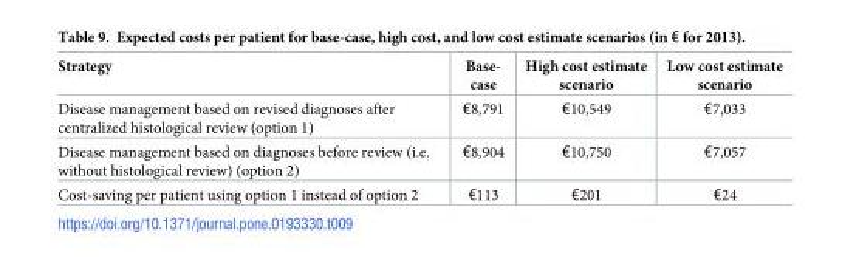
<table><thead><tr><td>Strategy</td><td>Base- case</td><td>High cost estimate scenario</td><td>Low cost estimate scenario</td></tr></thead><tbody><tr><td>Disease management based on revised diagnoses after centralized histological review (option 1)</td><td>€8,791</td><td>€10,549</td><td>€7,033</td></tr><tr><td>Disease management based on diagnoses before review (i.e. without histological review) (option 2)</td><td>€8,904</td><td>€10,750</td><td>€7,057</td></tr><tr><td>Cost-saving per patient using option 1 instead of option 2</td><td>€113</td><td>€201</td><td>€24</td></tr></tbody></table>